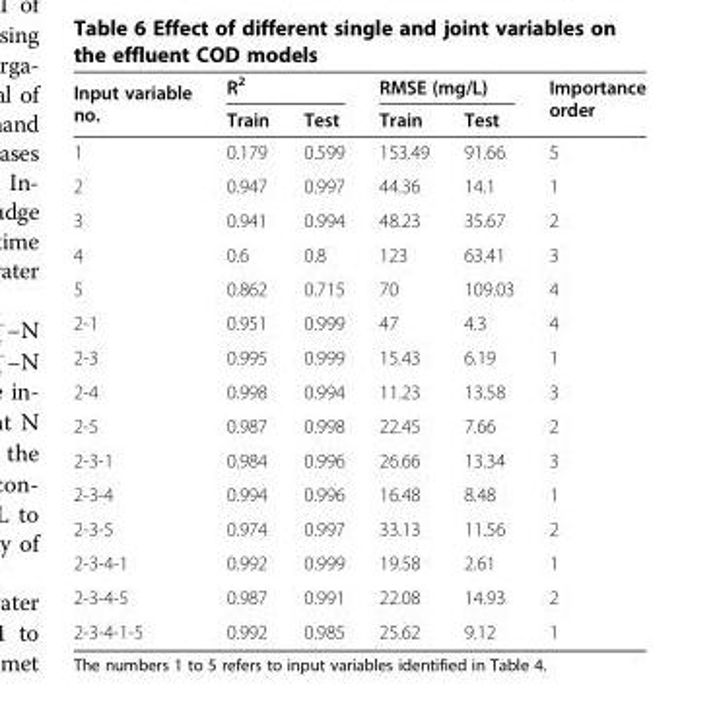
<table><thead><tr><td rowspan="2">Input variable no.</td><td colspan="2">R<sup>2</sup></td><td colspan="2">RMSE (mg/L)</td><td rowspan="2">Importance order</td></tr><tr><td>Train</td><td>Test</td><td>Train</td><td>Test</td></tr></thead><tbody><tr><td>1</td><td>0.179</td><td>0.599</td><td>153.49</td><td>91.66</td><td>5</td></tr><tr><td>2</td><td>0.947</td><td>0.997</td><td>44.36</td><td>14.1</td><td>1</td></tr><tr><td>3</td><td>0.941</td><td>0.994</td><td>48.23</td><td>35.67</td><td>2</td></tr><tr><td>4</td><td>0.6</td><td>0.8</td><td>123</td><td>63.41</td><td>3</td></tr><tr><td>5</td><td>0.862</td><td>0.715</td><td>70</td><td>109.03</td><td>4</td></tr><tr><td>2-1</td><td>0.951</td><td>0.999</td><td>47</td><td>4.3</td><td>4</td></tr><tr><td>2-3</td><td>0.995</td><td>0.999</td><td>15.43</td><td>6.19</td><td>1</td></tr><tr><td>2-4</td><td>0.998</td><td>0.994</td><td>11.23</td><td>13.58</td><td>3</td></tr><tr><td>2-5</td><td>0.987</td><td>0.998</td><td>22.45</td><td>7.66</td><td>2</td></tr><tr><td>2-3-1</td><td>0.984</td><td>0.996</td><td>26.66</td><td>13.34</td><td>3</td></tr><tr><td>2-3-4</td><td>0.994</td><td>0.996</td><td>16.48</td><td>8.48</td><td>1</td></tr><tr><td>2-3-5</td><td>0.974</td><td>0.997</td><td>33.13</td><td>11.56</td><td>2</td></tr><tr><td>2-3-4-1</td><td>0.992</td><td>0.999</td><td>19.58</td><td>2.61</td><td>1</td></tr><tr><td>2-3-4-5</td><td>0.987</td><td>0.991</td><td>22.08</td><td>14.93</td><td>2</td></tr><tr><td>2-3-4-1-5</td><td>0.992</td><td>0.985</td><td>25.62</td><td>9.12</td><td>1</td></tr></tbody></table>